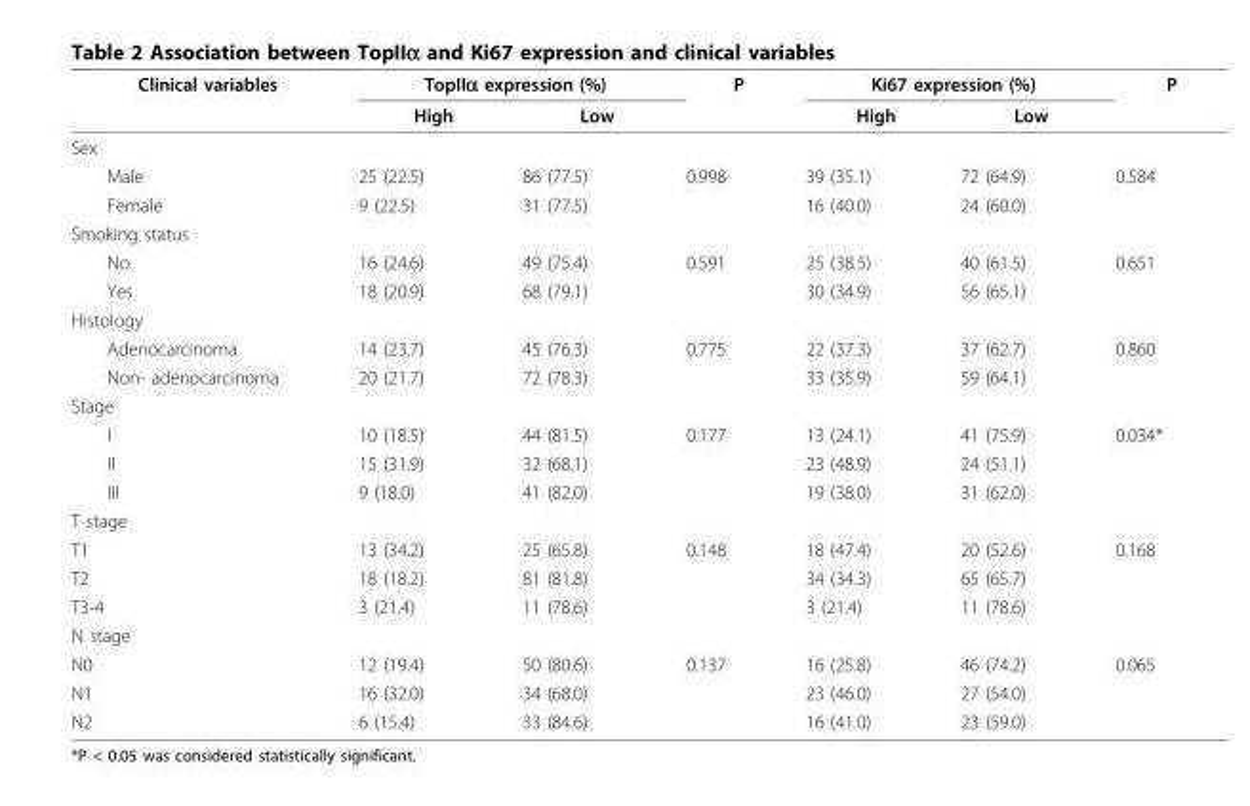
<table><thead><tr><td rowspan="2">Clinical variables</td><td colspan="2">TopIIα expression (%)</td><td rowspan="2">P</td><td colspan="2">Ki67 expression (%)</td><td rowspan="2">P</td></tr><tr><td>High</td><td>Low</td><td>High</td><td>Low</td></tr></thead><tbody><tr><td colspan="7">Sex</td></tr><tr><td>Male</td><td>25 (22.5)</td><td>86 (77.5)</td><td>0.998</td><td>39 (35.1)</td><td>72 (64.9)</td><td>0.584</td></tr><tr><td>Female</td><td>9 (22.5)</td><td>31 (77.5)</td><td></td><td>16 (40.0)</td><td>24 (60.0)</td><td></td></tr><tr><td colspan="7">Smoking status</td></tr><tr><td>No</td><td>16 (24.6)</td><td>49 (75.4)</td><td>0.591</td><td>25 (38.5)</td><td>40 (61.5)</td><td>0.651</td></tr><tr><td>Yes</td><td>18 (20.9)</td><td>68 (79.1)</td><td></td><td>30 (34.9)</td><td>56 (65.1)</td><td></td></tr><tr><td colspan="7">Histology</td></tr><tr><td>Adenocarcinoma</td><td>14 (23.7)</td><td>45 (76.3)</td><td>0.775</td><td>22 (37.3)</td><td>37 (62.7)</td><td>0.860</td></tr><tr><td>Non- adenocarcinoma</td><td>20 (21.7)</td><td>72 (78.3)</td><td></td><td>33 (35.9)</td><td>59 (64.1)</td><td></td></tr><tr><td colspan="7">Stage</td></tr><tr><td>I</td><td>10 (18.5)</td><td>44 (81.5)</td><td>0.177</td><td>13 (24.1)</td><td>41 (75.9)</td><td>0.034*</td></tr><tr><td>II</td><td>15 (31.9)</td><td>32 (68.1)</td><td></td><td>23 (48.9)</td><td>24 (51.1)</td><td></td></tr><tr><td>III</td><td>9 (18.0)</td><td>41 (82.0)</td><td></td><td>19 (38.0)</td><td>31 (62.0)</td><td></td></tr><tr><td colspan="7">T stage</td></tr><tr><td>T1</td><td>13 (34.2)</td><td>25 (65.8)</td><td>0.148</td><td>18 (47.4)</td><td>20 (52.6)</td><td>0.168</td></tr><tr><td>T2</td><td>18 (18.2)</td><td>81 (81.8)</td><td></td><td>34 (34.3)</td><td>65 (65.7)</td><td></td></tr><tr><td>T3-4</td><td>3 (21.4)</td><td>11 (78.6)</td><td></td><td>3 (21.4)</td><td>11 (78.6)</td><td></td></tr><tr><td colspan="7">N stage</td></tr><tr><td>N0</td><td>12 (19.4)</td><td>50 (80.6)</td><td>0.137</td><td>16 (25.8)</td><td>46 (74.2)</td><td>0.065</td></tr><tr><td>N1</td><td>16 (32.0)</td><td>34 (68.0)</td><td></td><td>23 (46.0)</td><td>27 (54.0)</td><td></td></tr><tr><td>N2</td><td>6 (15.4)</td><td>33 (84.6)</td><td></td><td>16 (41.0)</td><td>23 (59.0)</td><td></td></tr></tbody></table>